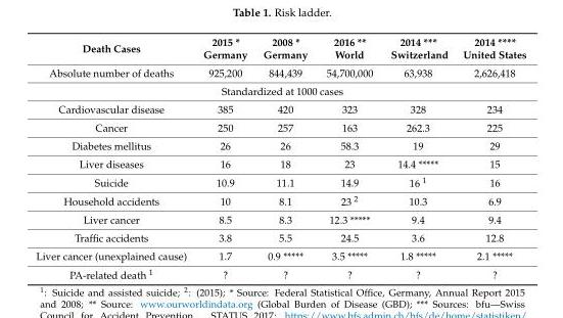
<table><thead><tr><td>Death Cases</td><td>2015 * Germany</td><td>2008 * Germany</td><td>2016 ** World</td><td>2014 *** Switzerland</td><td>2014 **** United States</td></tr></thead><tbody><tr><td>Absolute number of deaths</td><td>925,200</td><td>844,439</td><td>54,700,000</td><td>63,938</td><td>2,626,418</td></tr><tr><td colspan="6">Standardized at 1000 cases</td></tr><tr><td>Cardiovascular disease</td><td>385</td><td>420</td><td>323</td><td>328</td><td>234</td></tr><tr><td>Cancer</td><td>250</td><td>257</td><td>163</td><td>262.3</td><td>225</td></tr><tr><td>Diabetes mellitus</td><td>26</td><td>26</td><td>58.3</td><td>19</td><td>29</td></tr><tr><td>Liver diseases</td><td>16</td><td>18</td><td>23</td><td>14.4 *****</td><td>15</td></tr><tr><td>Suicide</td><td>10.9</td><td>11.1</td><td>14.9</td><td>16 <sup>1</sup></td><td>16</td></tr><tr><td>Household accidents</td><td>10</td><td>8.1</td><td>23 <sup>2</sup></td><td>10.3</td><td>6.9</td></tr><tr><td>Liver cancer</td><td>8.5</td><td>8.3</td><td>12.3 *****</td><td>9.4</td><td>9.4</td></tr><tr><td>Traffic accidents</td><td>3.8</td><td>5.5</td><td>24.5</td><td>3.6</td><td>12.8</td></tr><tr><td>Liver cancer (unexplained cause)</td><td>1.7</td><td>0.9 *****</td><td>3.5 *****</td><td>1.8 *****</td><td>2.1 *****</td></tr><tr><td>PA-related death <sup>1</sup></td><td>?</td><td>?</td><td>?</td><td>?</td><td>?</td></tr></tbody></table>